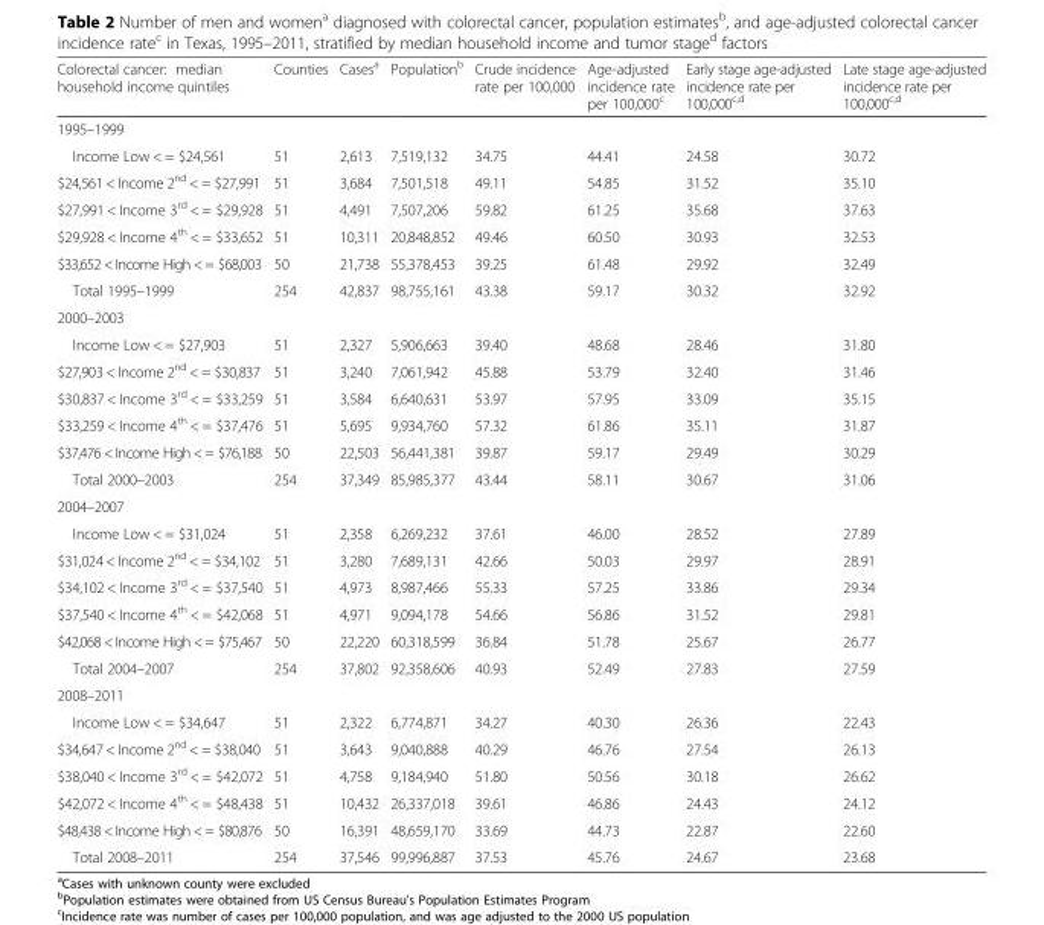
<table><thead><tr><td>Colorectal cancer: median household income quintiles</td><td>Counties</td><td>Cases<sup>a</sup></td><td>Population<sup>b</sup></td><td>Crude incidence rate per 100,000</td><td>Age-adjusted incidence rate per 100,000<sup>c</sup></td><td>Early stage age-adjusted incidence rate per 100,000<sup>c,d</sup></td><td>Late stage age-adjusted incidence rate per 100,000<sup>c,d</sup></td></tr></thead><tbody><tr><td colspan="8">1995–1999</td></tr><tr><td>Income Low &lt; = $24,561</td><td>51</td><td>2,613</td><td>7,519,132</td><td>34.75</td><td>44.41</td><td>24.58</td><td>30.72</td></tr><tr><td>$24,561 &lt; Income 2<sup>nd</sup> &lt; = $27,991</td><td>51</td><td>3,684</td><td>7,501,518</td><td>49.11</td><td>54.85</td><td>31.52</td><td>35.10</td></tr><tr><td>$27,991 &lt; Income 3<sup>rd</sup> &lt; = $29,928</td><td>51</td><td>4,491</td><td>7,507,206</td><td>59.82</td><td>61.25</td><td>35.68</td><td>37.63</td></tr><tr><td>$29,928 &lt; Income 4<sup>th</sup> &lt; = $33,652</td><td>51</td><td>10,311</td><td>20,848,852</td><td>49.46</td><td>60.50</td><td>30.93</td><td>32.53</td></tr><tr><td>$33,652 &lt; Income High &lt; = $68,003</td><td>50</td><td>21,738</td><td>55,378,453</td><td>39.25</td><td>61.48</td><td>29.92</td><td>32.49</td></tr><tr><td>Total 1995–1999</td><td>254</td><td>42,837</td><td>98,755,161</td><td>43.38</td><td>59.17</td><td>30.32</td><td>32.92</td></tr><tr><td colspan="8">2000–2003</td></tr><tr><td>Income Low &lt; = $27,903</td><td>51</td><td>2,327</td><td>5,906,663</td><td>39.40</td><td>48.68</td><td>28.46</td><td>31.80</td></tr><tr><td>$27,903 &lt; Income 2<sup>nd</sup> &lt; = $30,837</td><td>51</td><td>3,240</td><td>7,061,942</td><td>45.88</td><td>53.79</td><td>32.40</td><td>31.46</td></tr><tr><td>$30,837 &lt; Income 3<sup>rd</sup> &lt; = $33,259</td><td>51</td><td>3,584</td><td>6,640,631</td><td>53.97</td><td>57.95</td><td>33.09</td><td>35.15</td></tr><tr><td>$33,259 &lt; Income 4<sup>th</sup> &lt; = $37,476</td><td>51</td><td>5,695</td><td>9,934,760</td><td>57.32</td><td>61.86</td><td>35.11</td><td>31.87</td></tr><tr><td>$37,476 &lt; Income High &lt; = $76,188</td><td>50</td><td>22,503</td><td>56,441,381</td><td>39.87</td><td>59.17</td><td>29.49</td><td>30.29</td></tr><tr><td>Total 2000–2003</td><td>254</td><td>37,349</td><td>85,985,377</td><td>43.44</td><td>58.11</td><td>30.67</td><td>31.06</td></tr><tr><td colspan="8">2004–2007</td></tr><tr><td>Income Low &lt; = $31,024</td><td>51</td><td>2,358</td><td>6,269,232</td><td>37.61</td><td>46.00</td><td>28.52</td><td>27.89</td></tr><tr><td>$31,024 &lt; Income 2<sup>nd</sup> &lt; = $34,102</td><td>51</td><td>3,280</td><td>7,689,131</td><td>42.66</td><td>50.03</td><td>29.97</td><td>28.91</td></tr><tr><td>$34,102 &lt; Income 3<sup>rd</sup> &lt; = $37,540</td><td>51</td><td>4,973</td><td>8,987,466</td><td>55.33</td><td>57.25</td><td>33.86</td><td>29.34</td></tr><tr><td>$37,540 &lt; Income 4<sup>th</sup> &lt; = $42,068</td><td>51</td><td>4,971</td><td>9,094,178</td><td>54.66</td><td>56.86</td><td>31.52</td><td>29.81</td></tr><tr><td>$42,068 &lt; Income High &lt; = $75,467</td><td>50</td><td>22,220</td><td>60,318,599</td><td>36.84</td><td>51.78</td><td>25.67</td><td>26.77</td></tr><tr><td>Total 2004–2007</td><td>254</td><td>37,802</td><td>92,358,606</td><td>40.93</td><td>52.49</td><td>27.83</td><td>27.59</td></tr><tr><td colspan="8">2008–2011</td></tr><tr><td>Income Low &lt; = $34,647</td><td>51</td><td>2,322</td><td>6,774,871</td><td>34.27</td><td>40.30</td><td>26.36</td><td>22.43</td></tr><tr><td>$34,647 &lt; Income 2<sup>nd</sup> &lt; = $38,040</td><td>51</td><td>3,643</td><td>9,040,888</td><td>40.29</td><td>46.76</td><td>27.54</td><td>26.13</td></tr><tr><td>$38,040 &lt; Income 3<sup>rd</sup> &lt; = $42,072</td><td>51</td><td>4,758</td><td>9,184,940</td><td>51.80</td><td>50.56</td><td>30.18</td><td>26.62</td></tr><tr><td>$42,072 &lt; Income 4<sup>th</sup> &lt; = $48,438</td><td>51</td><td>10,432</td><td>26,337,018</td><td>39.61</td><td>46.86</td><td>24.43</td><td>24.12</td></tr><tr><td>$48,438 &lt; Income High &lt; = $80,876</td><td>50</td><td>16,391</td><td>48,659,170</td><td>33.69</td><td>44.73</td><td>22.87</td><td>22.60</td></tr><tr><td>Total 2008–2011</td><td>254</td><td>37,546</td><td>99,996,887</td><td>37.53</td><td>45.76</td><td>24.67</td><td>23.68</td></tr></tbody></table>